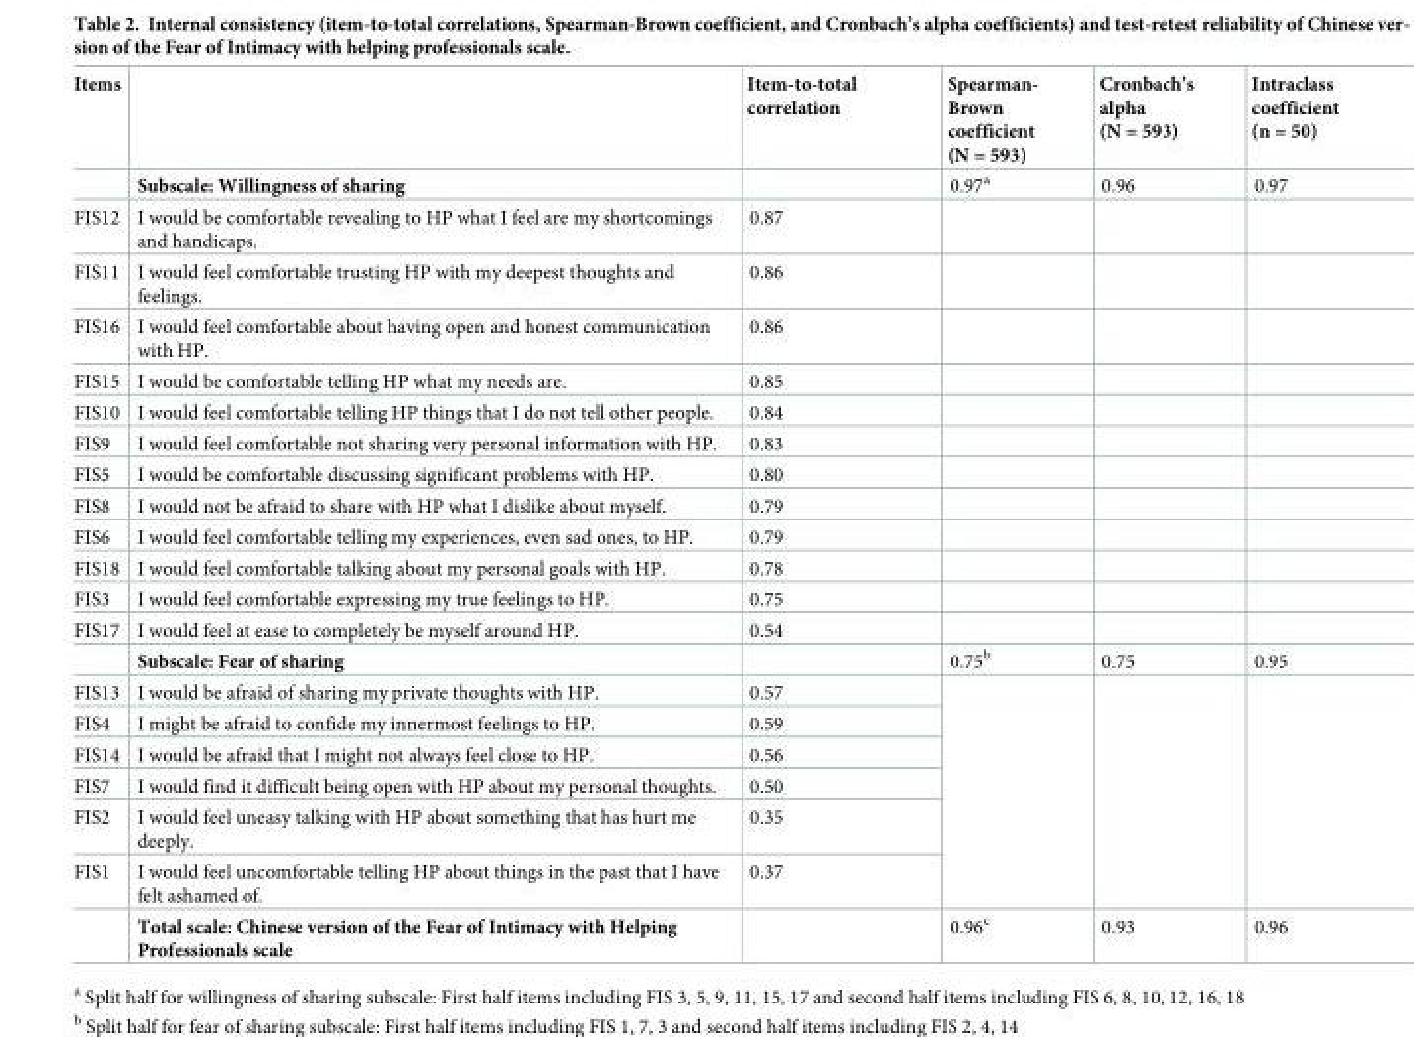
<table><thead><tr><td>Items</td><td></td><td>Item-to-total correlation</td><td>Spearman- Brown coefficient (N = 593)</td><td>Cronbach’s alpha (N = 593)</td><td>Intraclass coefficient (n = 50)</td></tr></thead><tbody><tr><td></td><td>Subscale: Willingness of sharing</td><td></td><td>0.97<sup>a</sup></td><td>0.96</td><td>0.97</td></tr><tr><td>FIS12</td><td>I would be comfortable revealing to HP what I feel are my shortcomings and handicaps.</td><td>0.87</td><td></td><td></td><td></td></tr><tr><td>FIS11</td><td>I would feel comfortable trusting HP with my deepest thoughts and feelings.</td><td>0.86</td><td></td><td></td><td></td></tr><tr><td>FIS16</td><td>I would feel comfortable about having open and honest communication with HP.</td><td>0.86</td><td></td><td></td><td></td></tr><tr><td>FIS15</td><td>I would be comfortable telling HP what my needs are.</td><td>0.85</td><td></td><td></td><td></td></tr><tr><td>FIS10</td><td>I would feel comfortable telling HP things that I do not tell other people.</td><td>0.84</td><td></td><td></td><td></td></tr><tr><td>FIS9</td><td>I would feel comfortable not sharing very personal information with HP.</td><td>0.83</td><td></td><td></td><td></td></tr><tr><td>FIS5</td><td>I would be comfortable discussing significant problems with HP.</td><td>0.80</td><td></td><td></td><td></td></tr><tr><td>FIS8</td><td>I would not be afraid to share with HP what I dislike about myself.</td><td>0.79</td><td></td><td></td><td></td></tr><tr><td>FIS6</td><td>I would feel comfortable telling my experiences, even sad ones, to HP.</td><td>0.79</td><td></td><td></td><td></td></tr><tr><td>FIS18</td><td>I would feel comfortable talking about my personal goals with HP.</td><td>0.78</td><td></td><td></td><td></td></tr><tr><td>FIS3</td><td>I would feel comfortable expressing my true feelings to HP.</td><td>0.75</td><td></td><td></td><td></td></tr><tr><td rowspan="2">FIS17</td><td>I would feel at ease to completely be myself around HP.</td><td>0.54</td><td></td><td></td><td></td></tr><tr><td>Subscale: Fear of sharing</td><td></td><td>0.75<sup>b</sup></td><td>0.75</td><td>0.95</td></tr><tr><td>FIS13</td><td>I would be afraid of sharing my private thoughts with HP.</td><td>0.57</td><td rowspan="6"></td><td rowspan="6"></td><td rowspan="6"></td></tr><tr><td>FIS4</td><td>I might be afraid to confide my innermost feelings to HP.</td><td>0.59</td></tr><tr><td>FIS14</td><td>I would be afraid that I might not always feel close to HP.</td><td>0.56</td></tr><tr><td>FIS7</td><td>I would find it difficult being open with HP about my personal thoughts.</td><td>0.50</td></tr><tr><td>FIS2</td><td>I would feel uneasy talking with HP about something that has hurt me deeply.</td><td>0.35</td></tr><tr><td rowspan="2">FIS1</td><td>I would feel uncomfortable telling HP about things in the past that I have felt ashamed of.</td><td>0.37</td></tr><tr><td>Total scale: Chinese version of the Fear of Intimacy with Helping Professionals scale</td><td></td><td>0.96<sup>c</sup></td><td>0.93</td><td>0.96</td></tr></tbody></table>